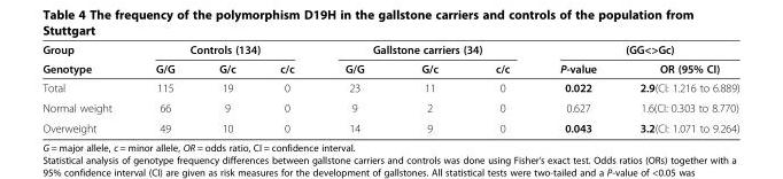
<table><thead><tr><td rowspan="2">Group Genotype</td><td colspan="3">Controls (134)</td><td colspan="3">Gallstone carriers (34)</td><td colspan="2">(GG&lt;&gt;Gc)</td></tr><tr><td>G/G</td><td>G/c</td><td>c/c</td><td>G/G</td><td>G/c</td><td>c/c</td><td>P-value</td><td>OR (95% CI)</td></tr></thead><tbody><tr><td>Total</td><td>115</td><td>19</td><td>0</td><td>23</td><td>11</td><td>0</td><td>0.022</td><td>2.9(CI: 1.216 to 6.889)</td></tr><tr><td>Normal weight</td><td>66</td><td>9</td><td>0</td><td>9</td><td>2</td><td>0</td><td>0.627</td><td>1.6(CI: 0.303 to 8.770)</td></tr><tr><td>Overweight</td><td>49</td><td>10</td><td>0</td><td>14</td><td>9</td><td>0</td><td>0.043</td><td>3.2(CI: 1.071 to 9.264)</td></tr></tbody></table>